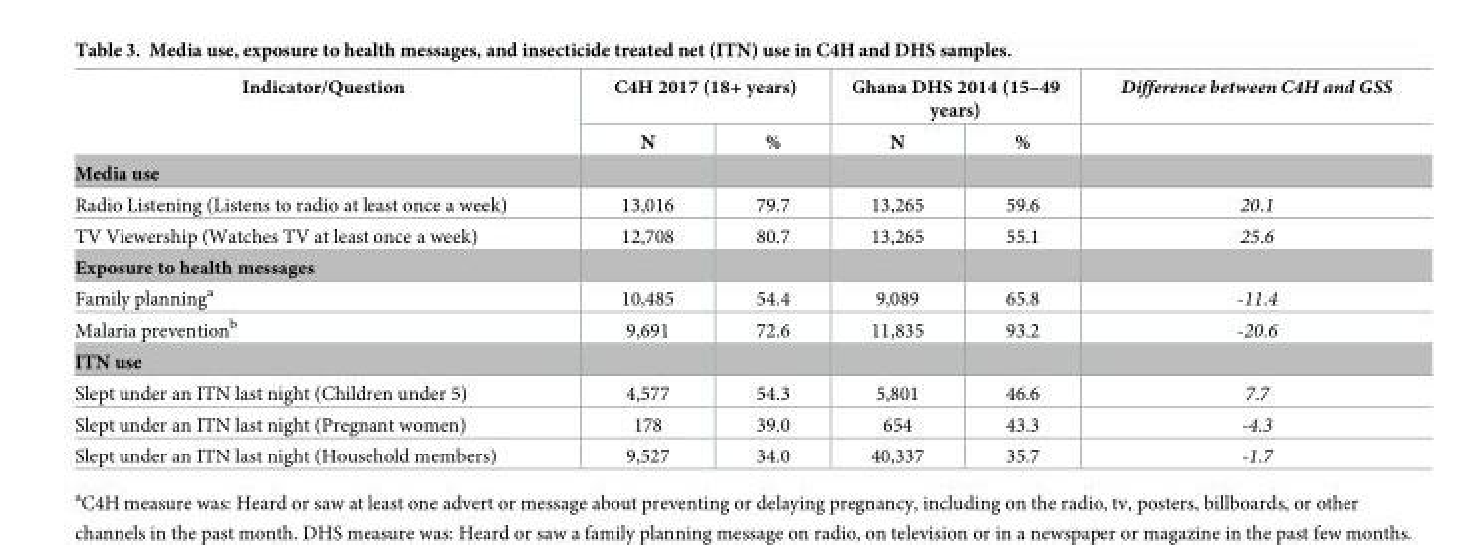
<table><thead><tr><td rowspan="2">Indicator/Question</td><td colspan="2">C4H 2017 (18+ years)</td><td colspan="2">Ghana DHS 2014 (15–49 years)</td><td rowspan="2">Difference between C4H and GSS</td></tr><tr><td>N</td><td>%</td><td>N</td><td>%</td></tr></thead><tbody><tr><td colspan="6">Media use</td></tr><tr><td>Radio Listening (Listens to radio at least once a week)</td><td>13,016</td><td>79.7</td><td>13,265</td><td>59.6</td><td>20.1</td></tr><tr><td>TV Viewership (Watches TV at least once a week)</td><td>12,708</td><td>80.7</td><td>13,265</td><td>55.1</td><td>25.6</td></tr><tr><td colspan="6">Exposure to health messages</td></tr><tr><td>Family planning<sup>a</sup></td><td>10,485</td><td>54.4</td><td>9,089</td><td>65.8</td><td>-11.4</td></tr><tr><td>Malaria prevention<sup>b</sup></td><td>9,691</td><td>72.6</td><td>11,835</td><td>93.2</td><td>-20.6</td></tr><tr><td colspan="6">ITN use</td></tr><tr><td>Slept under an ITN last night (Children under 5)</td><td>4,577</td><td>54.3</td><td>5,801</td><td>46.6</td><td>7.7</td></tr><tr><td>Slept under an ITN last night (Pregnant women)</td><td>178</td><td>39.0</td><td>654</td><td>43.3</td><td>-4.3</td></tr><tr><td>Slept under an ITN last night (Household members)</td><td>9,527</td><td>34.0</td><td>40,337</td><td>35.7</td><td>-1.7</td></tr></tbody></table>